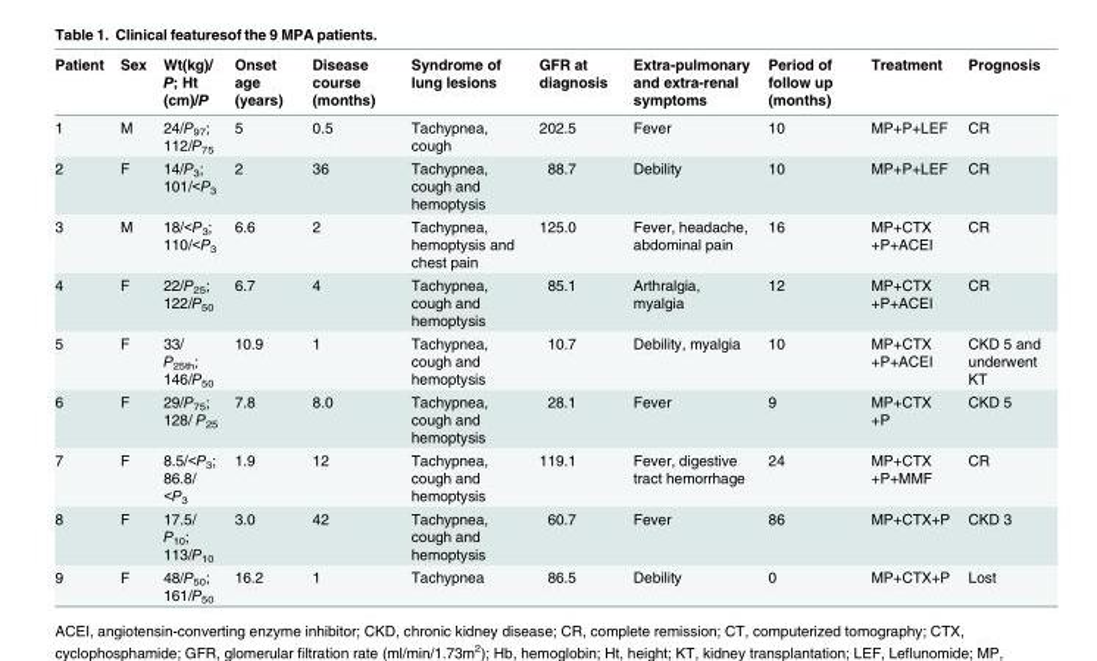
<table><thead><tr><td>Patient</td><td>Sex</td><td>Wt(kg)/ P; Ht (cm)/P</td><td>Onset age (years)</td><td>Disease course (months)</td><td>Syndrome of lung lesions</td><td>GFR at diagnosis</td><td>Extra-pulmonary and extra-renal symptoms</td><td>Period of follow up (months)</td><td>Treatment</td><td>Prognosis</td></tr></thead><tbody><tr><td>1</td><td>M</td><td>24/P<sub>97</sub>; 112/P<sub>75</sub></td><td>5</td><td>0.5</td><td>Tachypnea, cough</td><td>202.5</td><td>Fever</td><td>10</td><td>MP+P+LEF</td><td>CR</td></tr><tr><td>2</td><td>F</td><td>14/P<sub>3</sub>; 101/&lt;P<sub>3</sub></td><td>2</td><td>36</td><td>Tachypnea, cough and hemoptysis</td><td>88.7</td><td>Debility</td><td>10</td><td>MP+P+LEF</td><td>CR</td></tr><tr><td>3</td><td>M</td><td>18/&lt;P<sub>3</sub>; 110/&lt;P<sub>3</sub></td><td>6.6</td><td>2</td><td>Tachypnea, hemoptysis and chest pain</td><td>125.0</td><td>Fever, headache, abdominal pain</td><td>16</td><td>MP+CTX +P+ACEI</td><td>CR</td></tr><tr><td>4</td><td>F</td><td>22/P<sub>25</sub>; 122/P<sub>50</sub></td><td>6.7</td><td>4</td><td>Tachypnea, cough and hemoptysis</td><td>85.1</td><td>Arthralgia, myalgia</td><td>12</td><td>MP+CTX +P+ACEI</td><td>CR</td></tr><tr><td>5</td><td>F</td><td>33/ P<sub>25th</sub>; 146/P<sub>50</sub></td><td>10.9</td><td>1</td><td>Tachypnea, cough and hemoptysis</td><td>10.7</td><td>Debility, myalgia</td><td>10</td><td>MP+CTX +P+ACEI</td><td>CKD 5 and underwent KT</td></tr><tr><td>6</td><td>F</td><td>29/P<sub>75</sub>; 128/ P<sub>25</sub></td><td>7.8</td><td>8.0</td><td>Tachypnea, cough and hemoptysis</td><td>28.1</td><td>Fever</td><td>9</td><td>MP+CTX +P</td><td>CKD 5</td></tr><tr><td>7</td><td>F</td><td>8.5/&lt;P<sub>3</sub>; 86.8/ &lt;P<sub>3</sub></td><td>1.9</td><td>12</td><td>Tachypnea, cough and hemoptysis</td><td>119.1</td><td>Fever, digestive tract hemorrhage</td><td>24</td><td>MP+CTX +P+MMF</td><td>CR</td></tr><tr><td>8</td><td>F</td><td>17.5/ P<sub>10</sub>; 113/P<sub>10</sub></td><td>3.0</td><td>42</td><td>Tachypnea, cough and hemoptysis</td><td>60.7</td><td>Fever</td><td>86</td><td>MP+CTX+P</td><td>CKD 3</td></tr><tr><td>9</td><td>F</td><td>48/P<sub>50</sub>; 161/P<sub>50</sub></td><td>16.2</td><td>1</td><td>Tachypnea</td><td>86.5</td><td>Debility</td><td>0</td><td>MP+CTX+P</td><td>Lost</td></tr></tbody></table>